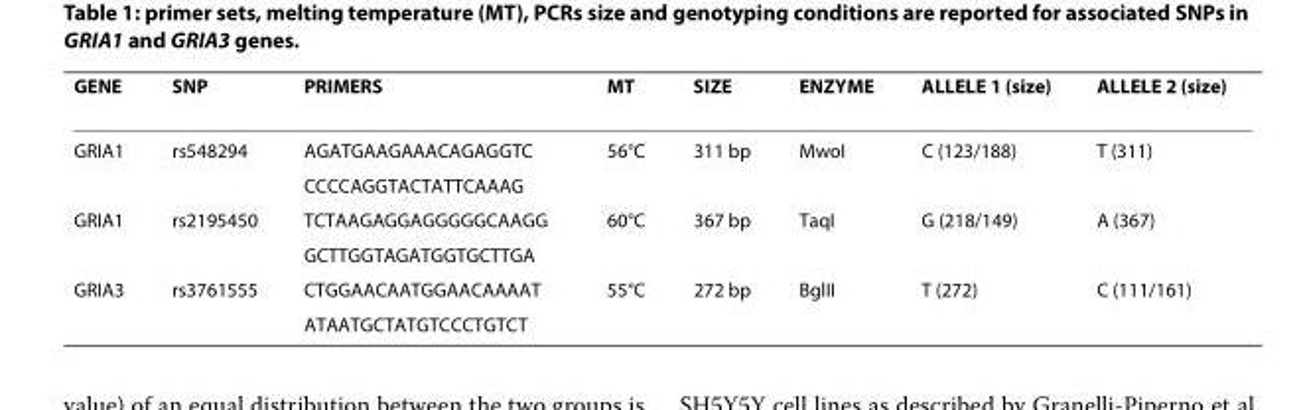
<table><thead><tr><td>GENE</td><td>SNP</td><td>PRIMERS</td><td>MT</td><td>SIZE</td><td>ENZYME</td><td>ALLELE 1 (size)</td><td>ALLELE 2 (size)</td></tr></thead><tbody><tr><td rowspan="2">GRIA1</td><td>rs548294</td><td>AGATGAAGAAACAGAGGTC</td><td>56°C</td><td>311 bp</td><td>MwoI</td><td>C (123/188)</td><td>T (311)</td></tr><tr><td></td><td>CCCCAGGTACTATTCAAAG</td><td></td><td></td><td></td><td></td><td></td></tr><tr><td rowspan="2">GRIA1</td><td>rs2195450</td><td>TCTAAGAGGAGGGGGCAAGG</td><td>60°C</td><td>367 bp</td><td>TaqI</td><td>G (218/149)</td><td>A (367)</td></tr><tr><td></td><td>GCTTGGTAGATGGTGCTTGA</td><td></td><td></td><td></td><td></td><td></td></tr><tr><td rowspan="2">GRIA3</td><td>rs3761555</td><td>CTGGAACAATGGAACAAAAT</td><td>55°C</td><td>272 bp</td><td>BglII</td><td>T (272)</td><td>C (111/161)</td></tr><tr><td></td><td>ATAATGCTATGTCCCTGTCT</td><td></td><td></td><td></td><td></td><td></td></tr></tbody></table>